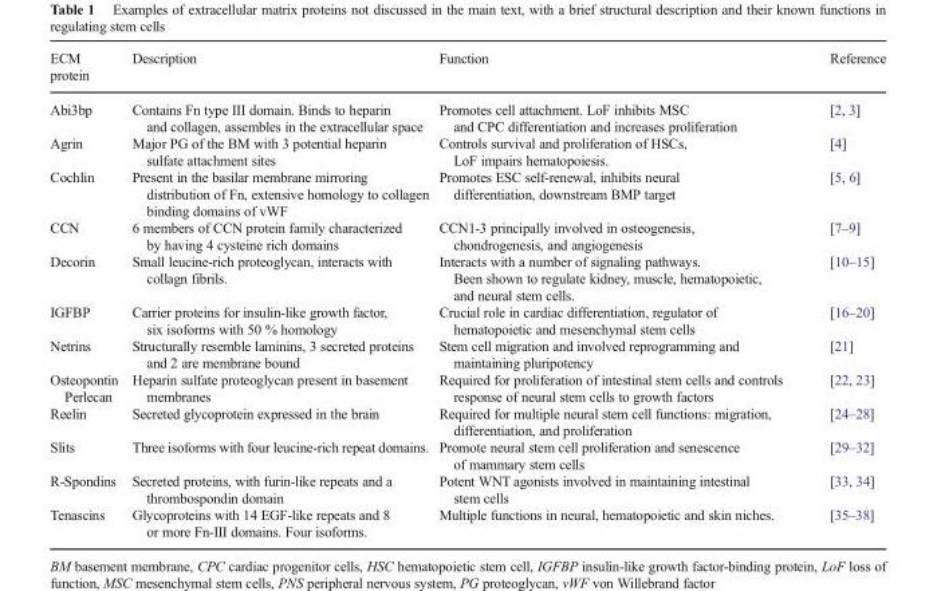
<table><thead><tr><td>ECM protein</td><td>Description</td><td>Function</td><td>Reference</td></tr></thead><tbody><tr><td>Abi3bp</td><td>Contains Fn type III domain. Binds to heparin and collagen, assembles in the extracellular space</td><td>Promotes cell attachment. LoF inhibits MSC and CPC differentiation and increases proliferation</td><td>[2, 3]</td></tr><tr><td>Agrin</td><td>Major PG of the BM with 3 potential heparin sulfate attachment sites</td><td>Controls survival and proliferation of HSCs, LoF impairs hematopoiesis.</td><td>[4]</td></tr><tr><td>Cochlin</td><td>Present in the basilar membrane mirroring distribution of Fn, extensive homology to collagen binding domains of vWF</td><td>Promotes ESC self-renewal, inhibits neural differentiation, downstream BMP target</td><td>[5, 6]</td></tr><tr><td>CCN</td><td>6 members of CCN protein family characterized by having 4 cysteine rich domains</td><td>CCN1-3 principally involved in osteogenesis, chondrogenesis, and angiogenesis</td><td>[7–9]</td></tr><tr><td>Decorin</td><td>Small leucine-rich proteoglycan, interacts with collagn fibrils.</td><td>Interacts with a number of signaling pathways. Been shown to regulate kidney, muscle, hematopoietic, and neural stem cells.</td><td>[10–15]</td></tr><tr><td>IGFBP</td><td>Carrier proteins for insulin-like growth factor, six isoforms with 50 % homology</td><td>Crucial role in cardiac differentiation, regulator of hematopoietic and mesenchymal stem cells</td><td>[16–20]</td></tr><tr><td>Netrins</td><td>Structurally resemble laminins, 3 secreted proteins and 2 are membrane bound</td><td>Stem cell migration and involved reprogramming and maintaining pluripotency</td><td>[21]</td></tr><tr><td>Osteopontin Perlecan</td><td>Heparin sulfate proteoglycan present in basement membranes</td><td>Required for proliferation of intestinal stem cells and controls response of neural stem cells to growth factors</td><td>[22, 23]</td></tr><tr><td>Reelin</td><td>Secreted glycoprotein expressed in the brain</td><td>Required for multiple neural stem cell functions: migration, differentiation, and proliferation</td><td>[24–28]</td></tr><tr><td>Slits</td><td>Three isoforms with four leucine-rich repeat domains.</td><td>Promote neural stem cell proliferation and senescence of mammary stem cells</td><td>[29–32]</td></tr><tr><td>R-Spondins</td><td>Secreted proteins, with furin-like repeats and a thrombospondin domain</td><td>Potent WNT agonists involved in maintaining intestinal stem cells</td><td>[33, 34]</td></tr><tr><td>Tenascins</td><td>Glycoproteins with 14 EGF-like repeats and 8 or more Fn-III domains. Four isoforms.</td><td>Multiple functions in neural, hematopoietic and skin niches.</td><td>[35–38]</td></tr></tbody></table>